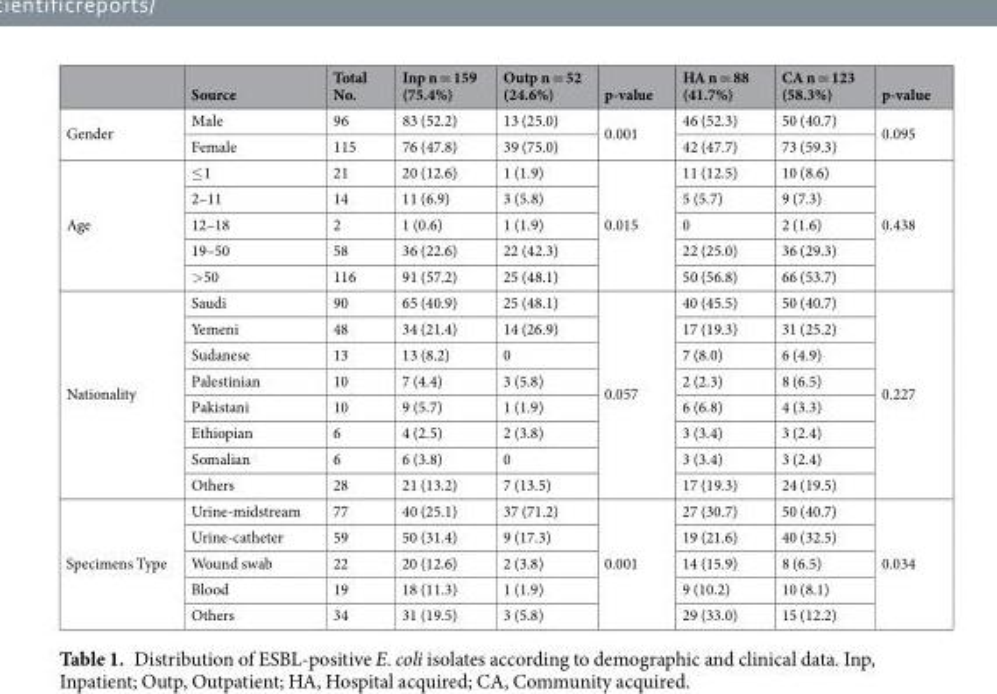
<table><thead><tr><td></td><td>Source</td><td>Total No.</td><td>Inp n = 159 (75.4%)</td><td>Outp n = 52 (24.6%)</td><td>p-value</td><td>HA n = 88 (41.7%)</td><td>CA n = 123 (58.3%)</td><td>p-value</td></tr></thead><tbody><tr><td rowspan="2">Gender</td><td>Male</td><td>96</td><td>83 (52.2)</td><td>13 (25.0)</td><td rowspan="2">0.001</td><td>46 (52.3)</td><td>50 (40.7)</td><td rowspan="2">0.095</td></tr><tr><td>Female</td><td>115</td><td>76 (47.8)</td><td>39 (75.0)</td><td>42 (47.7)</td><td>73 (59.3)</td></tr><tr><td rowspan="5">Age</td><td>≤1</td><td>21</td><td>20 (12.6)</td><td>1 (1.9)</td><td rowspan="5">0.015</td><td>11 (12.5)</td><td>10 (8.6)</td><td rowspan="5">0.438</td></tr><tr><td>2–11</td><td>14</td><td>11 (6.9)</td><td>3 (5.8)</td><td>5 (5.7)</td><td>9 (7.3)</td></tr><tr><td>12–18</td><td>2</td><td>1 (0.6)</td><td>1 (1.9)</td><td>0</td><td>2 (1.6)</td></tr><tr><td>19–50</td><td>58</td><td>36 (22.6)</td><td>22 (42.3)</td><td>22 (25.0)</td><td>36 (29.3)</td></tr><tr><td>&gt;50</td><td>116</td><td>91 (57.2)</td><td>25 (48.1)</td><td>50 (56.8)</td><td>66 (53.7)</td></tr><tr><td rowspan="8">Nationality</td><td>Saudi</td><td>90</td><td>65 (40.9)</td><td>25 (48.1)</td><td rowspan="8">0.057</td><td>40 (45.5)</td><td>50 (40.7)</td><td rowspan="8">0.227</td></tr><tr><td>Yemeni</td><td>48</td><td>34 (21.4)</td><td>14 (26.9)</td><td>17 (19.3)</td><td>31 (25.2)</td></tr><tr><td>Sudanese</td><td>13</td><td>13 (8.2)</td><td>0</td><td>7 (8.0)</td><td>6 (4.9)</td></tr><tr><td>Palestinian</td><td>10</td><td>7 (4.4)</td><td>3 (5.8)</td><td>2 (2.3)</td><td>8 (6.5)</td></tr><tr><td>Pakistani</td><td>10</td><td>9 (5.7)</td><td>1 (1.9)</td><td>6 (6.8)</td><td>4 (3.3)</td></tr><tr><td>Ethiopian</td><td>6</td><td>4 (2.5)</td><td>2 (3.8)</td><td>3 (3.4)</td><td>3 (2.4)</td></tr><tr><td>Somalian</td><td>6</td><td>6 (3.8)</td><td>0</td><td>3 (3.4)</td><td>3 (2.4)</td></tr><tr><td>Others</td><td>28</td><td>21 (13.2)</td><td>7 (13.5)</td><td>17 (19.3)</td><td>24 (19.5)</td></tr><tr><td rowspan="5">Specimens Type</td><td>Urine-midstream</td><td>77</td><td>40 (25.1)</td><td>37 (71.2)</td><td rowspan="5">0.001</td><td>27 (30.7)</td><td>50 (40.7)</td><td rowspan="5">0.034</td></tr><tr><td>Urine-catheter</td><td>59</td><td>50 (31.4)</td><td>9 (17.3)</td><td>19 (21.6)</td><td>40 (32.5)</td></tr><tr><td>Wound swab</td><td>22</td><td>20 (12.6)</td><td>2 (3.8)</td><td>14 (15.9)</td><td>8 (6.5)</td></tr><tr><td>Blood</td><td>19</td><td>18 (11.3)</td><td>1 (1.9)</td><td>9 (10.2)</td><td>10 (8.1)</td></tr><tr><td>Others</td><td>34</td><td>31 (19.5)</td><td>3 (5.8)</td><td>29 (33.0)</td><td>15 (12.2)</td></tr></tbody></table>